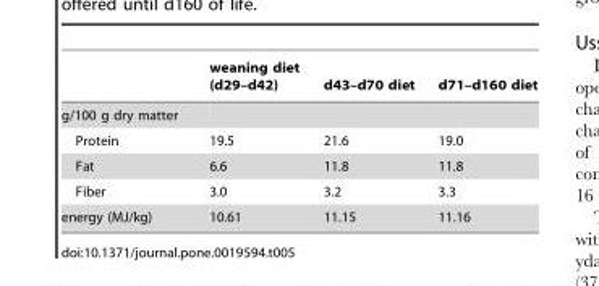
<table><thead><tr><td></td><td>weaning diet (d29–d42)</td><td>d43–d70 diet</td><td>d71–d160 diet</td></tr></thead><tbody><tr><td colspan="4">g/100 g dry matter</td></tr><tr><td>Protein</td><td>19.5</td><td>21.6</td><td>19.0</td></tr><tr><td>Fat</td><td>6.6</td><td>11.8</td><td>11.8</td></tr><tr><td>Fiber</td><td>3.0</td><td>3.2</td><td>3.3</td></tr><tr><td>energy (MJ/kg)</td><td>10.61</td><td>11.15</td><td>11.16</td></tr></tbody></table>